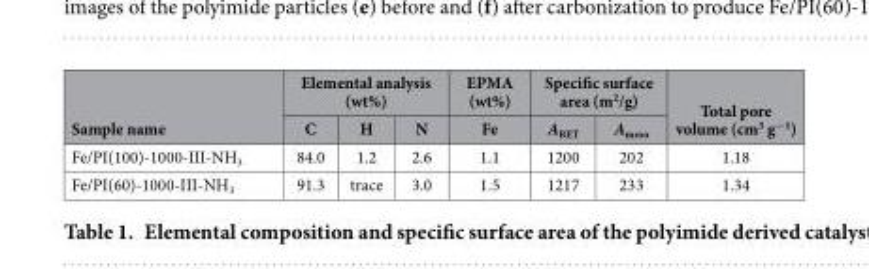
<table><thead><tr><td rowspan="2">Sample name</td><td colspan="3">Elemental analysis (wt%)</td><td rowspan="2">EPMA (wt%) Fe</td><td colspan="2">Specific surface area (m<sup>2</sup>/g)</td><td rowspan="2">Total pore volume (cm<sup>3</sup> g<sup>−1</sup>)</td></tr><tr><td>C</td><td>H</td><td>N</td><td>A<sub>BET</sub></td><td>A<sub>meso</sub></td></tr></thead><tbody><tr><td>Fe/PI(100)-1000-III-NH<sub>3</sub></td><td>84.0</td><td>1.2</td><td>2.6</td><td>1.1</td><td>1200</td><td>202</td><td>1.18</td></tr><tr><td>Fe/PI(60)-1000-III-NH<sub>3</sub></td><td>91.3</td><td>trace</td><td>3.0</td><td>1.5</td><td>1217</td><td>233</td><td>1.34</td></tr></tbody></table>